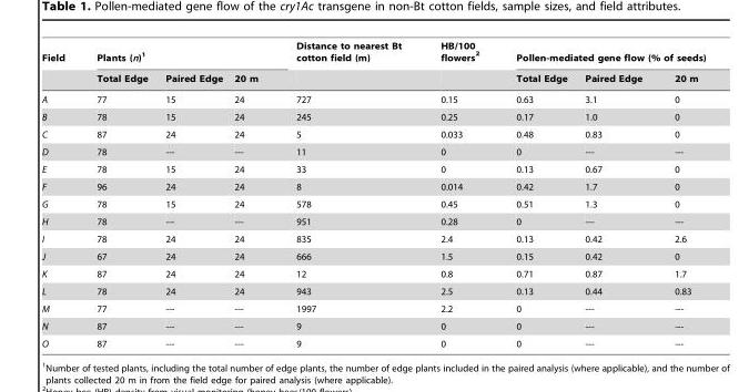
<table><thead><tr><td rowspan="2">Field</td><td colspan="3">Plants (n)<sup>1</sup></td><td rowspan="2">Distance to nearest Bt cotton field (m)</td><td rowspan="2">HB/100 flowers <sup>2</sup></td><td colspan="3">Pollen-mediated gene flow (% of seeds)</td></tr><tr><td>Total Edge</td><td>Paired Edge</td><td>20 m</td><td>Total Edge</td><td>Paired Edge</td><td>20 m</td></tr></thead><tbody><tr><td>A</td><td>77</td><td>15</td><td>24</td><td>727</td><td>0.15</td><td>0.63</td><td>3.1</td><td>0</td></tr><tr><td>B</td><td>78</td><td>15</td><td>24</td><td>245</td><td>0.25</td><td>0.17</td><td>1.0</td><td>0</td></tr><tr><td>C</td><td>87</td><td>24</td><td>24</td><td>5</td><td>0.033</td><td>0.48</td><td>0.83</td><td>0</td></tr><tr><td>D</td><td>78</td><td>---</td><td>---</td><td>11</td><td>0</td><td>0</td><td>---</td><td>---</td></tr><tr><td>E</td><td>78</td><td>15</td><td>24</td><td>33</td><td>0</td><td>0.13</td><td>0.67</td><td>0</td></tr><tr><td>F</td><td>96</td><td>24</td><td>24</td><td>8</td><td>0.014</td><td>0.42</td><td>1.7</td><td>0</td></tr><tr><td>G</td><td>78</td><td>15</td><td>24</td><td>578</td><td>0.45</td><td>0.51</td><td>1.3</td><td>0</td></tr><tr><td>H</td><td>78</td><td>---</td><td>---</td><td>951</td><td>0.28</td><td>0</td><td>---</td><td>---</td></tr><tr><td>I</td><td>78</td><td>24</td><td>24</td><td>835</td><td>2.4</td><td>0.13</td><td>0.42</td><td>2.6</td></tr><tr><td>J</td><td>67</td><td>24</td><td>24</td><td>666</td><td>1.5</td><td>0.15</td><td>0.42</td><td>0</td></tr><tr><td>K</td><td>87</td><td>24</td><td>24</td><td>12</td><td>0.8</td><td>0.71</td><td>0.87</td><td>1.7</td></tr><tr><td>L</td><td>78</td><td>24</td><td>24</td><td>943</td><td>2.5</td><td>0.13</td><td>0.44</td><td>0.83</td></tr><tr><td>M</td><td>77</td><td>---</td><td>---</td><td>1997</td><td>2.2</td><td>0</td><td>---</td><td>---</td></tr><tr><td>N</td><td>87</td><td>---</td><td>---</td><td>9</td><td>0</td><td>0</td><td>---</td><td>---</td></tr><tr><td>O</td><td>87</td><td>---</td><td>---</td><td>9</td><td>0</td><td>0</td><td>---</td><td>---</td></tr></tbody></table>